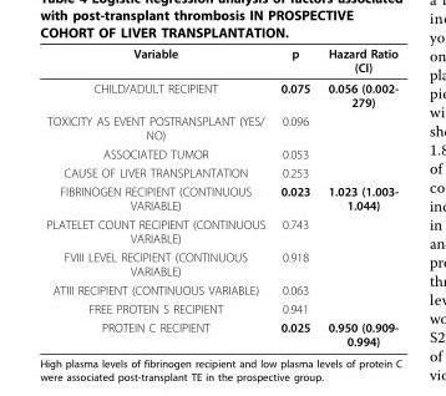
<table><thead><tr><td>Variable</td><td>p</td><td>Hazard Ratio (CI)</td></tr></thead><tbody><tr><td>CHILD/ADULT RECIPIENT</td><td>0.075</td><td>0.056 (0.002- 279)</td></tr><tr><td>TOXICITY AS EVENT POSTRANSPLANT (YES/ NO)</td><td>0.096</td><td></td></tr><tr><td>ASSOCIATED TUMOR</td><td>0.053</td><td></td></tr><tr><td>CAUSE OF LIVER TRANSPLANTATION</td><td>0.253</td><td></td></tr><tr><td>FIBRINOGEN RECIPIENT (CONTINUOUS VARIABLE)</td><td>0.023</td><td>1.023 (1.003- 1.044)</td></tr><tr><td>PLATELET COUNT RECIPIENT (CONTINUOUS VARIABLE)</td><td>0.743</td><td></td></tr><tr><td>FVIII LEVEL RECIPIENT (CONTINUOUS VARIABLE)</td><td>0.918</td><td></td></tr><tr><td>ATIII RECIPIENT (CONTINUOUS VARIABLE)</td><td>0.063</td><td></td></tr><tr><td>FREE PROTEIN S RECIPIENT</td><td>0.941</td><td></td></tr><tr><td>PROTEIN C RECIPIENT</td><td>0.025</td><td>0.950 (0.909- 0.994)</td></tr></tbody></table>